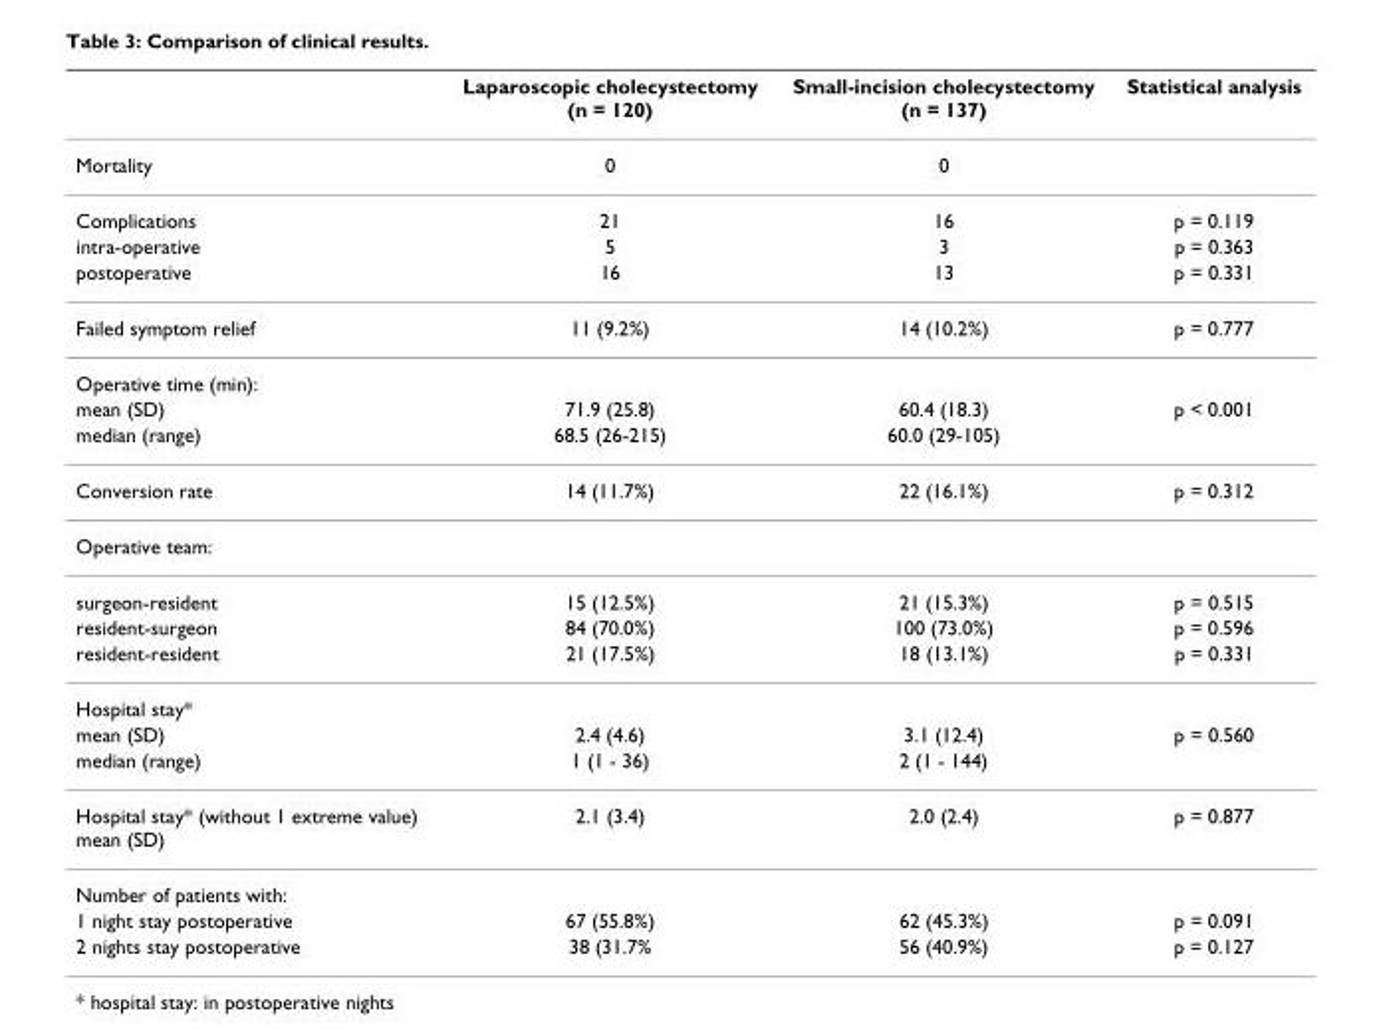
<table><thead><tr><td></td><td>Laparoscopic cholecystectomy (n = 120)</td><td>Small-incision cholecystectomy (n = 137)</td><td>Statistical analysis</td></tr></thead><tbody><tr><td>Mortality</td><td>0</td><td>0</td><td></td></tr><tr><td>Complications</td><td>21</td><td>16</td><td>p = 0.119</td></tr><tr><td>intra-operative</td><td>5</td><td>3</td><td>p = 0.363</td></tr><tr><td>postoperative</td><td>16</td><td>13</td><td>p = 0.331</td></tr><tr><td>Failed symptom relief</td><td>11 (9.2%)</td><td>14 (10.2%)</td><td>p = 0.777</td></tr><tr><td colspan="4">Operative time (min):</td></tr><tr><td>mean (SD)</td><td>71.9 (25.8)</td><td>60.4 (18.3)</td><td>p &lt; 0.001</td></tr><tr><td>median (range)</td><td>68.5 (26-215)</td><td>60.0 (29-105)</td><td></td></tr><tr><td>Conversion rate</td><td>14 (11.7%)</td><td>22 (16.1%)</td><td>p = 0.312</td></tr><tr><td colspan="4">Operative team:</td></tr><tr><td>surgeon-resident</td><td>15 (12.5%)</td><td>21 (15.3%)</td><td>p = 0.515</td></tr><tr><td>resident-surgeon</td><td>84 (70.0%)</td><td>100 (73.0%)</td><td>p = 0.596</td></tr><tr><td>resident-resident</td><td>21 (17.5%)</td><td>18 (13.1%)</td><td>p = 0.331</td></tr><tr><td colspan="4">Hospital stay*</td></tr><tr><td>mean (SD)</td><td>2.4 (4.6)</td><td>3.1 (12.4)</td><td>p = 0.560</td></tr><tr><td>median (range)</td><td>1 (1 - 36)</td><td>2 (1 - 144)</td><td></td></tr><tr><td>Hospital stay* (without 1 extreme value) mean (SD)</td><td>2.1 (3.4)</td><td>2.0 (2.4)</td><td>p = 0.877</td></tr><tr><td colspan="4">Number of patients with:</td></tr><tr><td>1 night stay postoperative</td><td>67 (55.8%)</td><td>62 (45.3%)</td><td>p = 0.091</td></tr><tr><td>2 nights stay postoperative</td><td>38 (31.7%</td><td>56 (40.9%)</td><td>p = 0.127</td></tr></tbody></table>